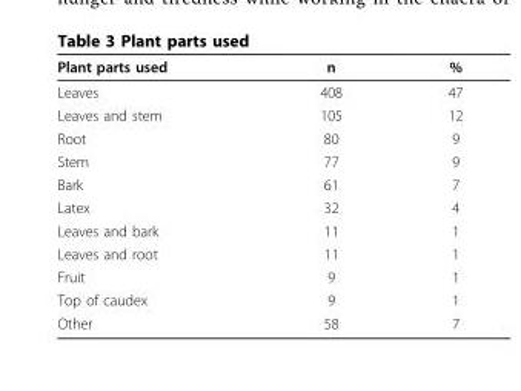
<table><thead><tr><td>Plant parts used</td><td>n</td><td>%</td></tr></thead><tbody><tr><td>Leaves</td><td>408</td><td>47</td></tr><tr><td>Leaves and stem</td><td>105</td><td>12</td></tr><tr><td>Root</td><td>80</td><td>9</td></tr><tr><td>Stem</td><td>77</td><td>9</td></tr><tr><td>Bark</td><td>61</td><td>7</td></tr><tr><td>Latex</td><td>32</td><td>4</td></tr><tr><td>Leaves and bark</td><td>11</td><td>1</td></tr><tr><td>Leaves and root</td><td>11</td><td>1</td></tr><tr><td>Fruit</td><td>9</td><td>1</td></tr><tr><td>Top of caudex</td><td>9</td><td>1</td></tr><tr><td>Other</td><td>58</td><td>7</td></tr></tbody></table>